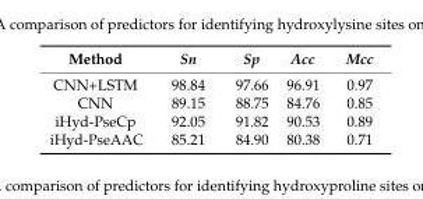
<table><thead><tr><td>Method</td><td>Sn</td><td>Sp</td><td>Acc</td><td>Mcc</td></tr></thead><tbody><tr><td>CNN+LSTM</td><td>98.84</td><td>97.66</td><td>96.91</td><td>0.97</td></tr><tr><td>CNN</td><td>89.15</td><td>88.75</td><td>84.76</td><td>0.85</td></tr><tr><td>iHyd-PseCp</td><td>92.05</td><td>91.82</td><td>90.53</td><td>0.89</td></tr><tr><td>iHyd-PseAAC</td><td>85.21</td><td>84.90</td><td>80.38</td><td>0.71</td></tr></tbody></table>